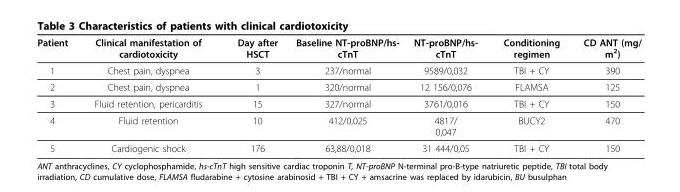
<table><thead><tr><td>Patient</td><td>Clinical manifestation of cardiotoxicity</td><td>Day after HSCT</td><td>Baseline NT-proBNP/hs- cTnT</td><td>NT-proBNP/hs- cTnT</td><td>Conditioning regimen</td><td>CD ANT (mg/ m<sup>2</sup>)</td></tr></thead><tbody><tr><td>1</td><td>Chest pain, dyspnea</td><td>3</td><td>237/normal</td><td>9589/0,032</td><td>TBI + CY</td><td>390</td></tr><tr><td>2</td><td>Chest pain, dyspnea</td><td>1</td><td>320/normal</td><td>12 156/0,076</td><td>FLAMSA</td><td>125</td></tr><tr><td>3</td><td>Fluid retention, pericarditis</td><td>15</td><td>327/normal</td><td>3761/0,016</td><td>TBI + CY</td><td>150</td></tr><tr><td>4</td><td>Fluid retention</td><td>10</td><td>412/0,025</td><td>4817/ 0,047</td><td>BUCY2</td><td>470</td></tr><tr><td>5</td><td>Cardiogenic shock</td><td>176</td><td>63,88/0,018</td><td>31 444/0,05</td><td>TBI + CY</td><td>150</td></tr></tbody></table>